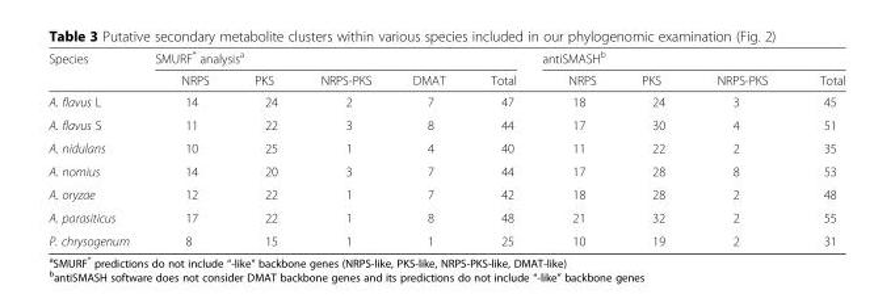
<table><thead><tr><td rowspan="2">Species</td><td colspan="5">SMURF* analysis<sup>a</sup></td><td colspan="4">antiSMASH<sup>b</sup></td></tr><tr><td>NRPS</td><td>PKS</td><td>NRPS-PKS</td><td>DMAT</td><td>Total</td><td>NRPS</td><td>PKS</td><td>NRPS-PKS</td><td>Total</td></tr></thead><tbody><tr><td>A. flavus L</td><td>14</td><td>24</td><td>2</td><td>7</td><td>47</td><td>18</td><td>24</td><td>3</td><td>45</td></tr><tr><td>A. flavus S</td><td>11</td><td>22</td><td>3</td><td>8</td><td>44</td><td>17</td><td>30</td><td>4</td><td>51</td></tr><tr><td>A. nidulans</td><td>10</td><td>25</td><td>1</td><td>4</td><td>40</td><td>11</td><td>22</td><td>2</td><td>35</td></tr><tr><td>A. nomius</td><td>14</td><td>20</td><td>3</td><td>7</td><td>44</td><td>17</td><td>28</td><td>8</td><td>53</td></tr><tr><td>A. oryzae</td><td>12</td><td>22</td><td>1</td><td>7</td><td>42</td><td>18</td><td>28</td><td>2</td><td>48</td></tr><tr><td>A. parasiticus</td><td>17</td><td>22</td><td>1</td><td>8</td><td>48</td><td>21</td><td>32</td><td>2</td><td>55</td></tr><tr><td>P. chrysogenum</td><td>8</td><td>15</td><td>1</td><td>1</td><td>25</td><td>10</td><td>19</td><td>2</td><td>31</td></tr></tbody></table>